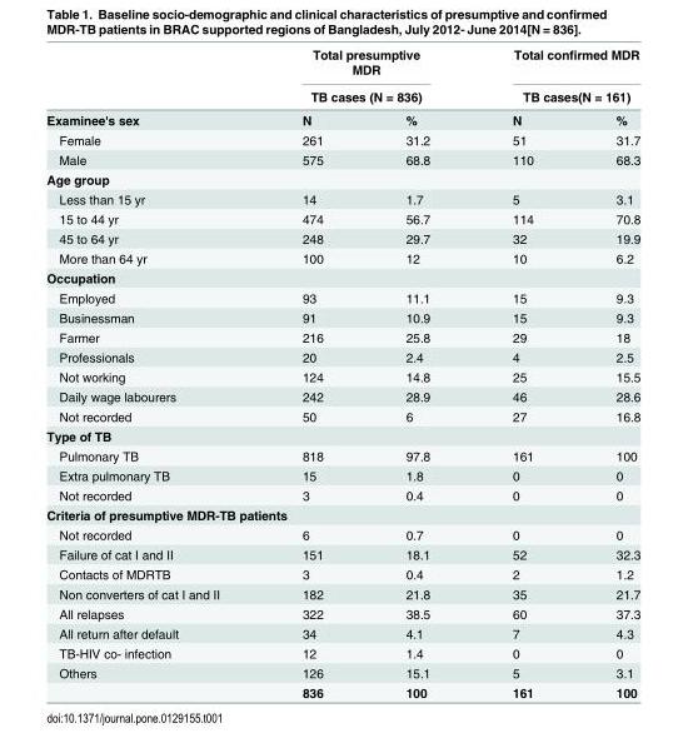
<table><thead><tr><td rowspan="3">Examinee&#x27;s sex</td><td rowspan="2" colspan="2">Total presumptive MDR TB cases (N = 836)</td><td rowspan="2" colspan="2">Total confirmed MDR TB cases(N = 161)</td></tr><tr></tr><tr><td>N</td><td>%</td><td>N</td><td>%</td></tr></thead><tbody><tr><td>Female</td><td>261</td><td>31.2</td><td>51</td><td>31.7</td></tr><tr><td>Male</td><td>575</td><td>68.8</td><td>110</td><td>68.3</td></tr><tr><td colspan="5">Age group</td></tr><tr><td>Less than 15 yr</td><td>14</td><td>1.7</td><td>5</td><td>3.1</td></tr><tr><td>15 to 44 yr</td><td>474</td><td>56.7</td><td>114</td><td>70.8</td></tr><tr><td>45 to 64 yr</td><td>248</td><td>29.7</td><td>32</td><td>19.9</td></tr><tr><td>More than 64 yr</td><td>100</td><td>12</td><td>10</td><td>6.2</td></tr><tr><td colspan="5">Occupation</td></tr><tr><td>Employed</td><td>93</td><td>11.1</td><td>15</td><td>9.3</td></tr><tr><td>Businessman</td><td>91</td><td>10.9</td><td>15</td><td>9.3</td></tr><tr><td>Farmer</td><td>216</td><td>25.8</td><td>29</td><td>18</td></tr><tr><td>Professionals</td><td>20</td><td>2.4</td><td>4</td><td>2.5</td></tr><tr><td>Not working</td><td>124</td><td>14.8</td><td>25</td><td>15.5</td></tr><tr><td>Daily wage labourers</td><td>242</td><td>28.9</td><td>46</td><td>28.6</td></tr><tr><td>Not recorded</td><td>50</td><td>6</td><td>27</td><td>16.8</td></tr><tr><td colspan="5">Type of TB</td></tr><tr><td>Pulmonary TB</td><td>818</td><td>97.8</td><td>161</td><td>100</td></tr><tr><td>Extra pulmonary TB</td><td>15</td><td>1.8</td><td>0</td><td>0</td></tr><tr><td>Not recorded</td><td>3</td><td>0.4</td><td>0</td><td>0</td></tr><tr><td colspan="5">Criteria of presumptive MDR-TB patients</td></tr><tr><td>Not recorded</td><td>6</td><td>0.7</td><td>0</td><td>0</td></tr><tr><td>Failure of cat I and II</td><td>151</td><td>18.1</td><td>52</td><td>32.3</td></tr><tr><td>Contacts of MDRTB</td><td>3</td><td>0.4</td><td>2</td><td>1.2</td></tr><tr><td>Non converters of cat I and II</td><td>182</td><td>21.8</td><td>35</td><td>21.7</td></tr><tr><td>All relapses</td><td>322</td><td>38.5</td><td>60</td><td>37.3</td></tr><tr><td>All return after default</td><td>34</td><td>4.1</td><td>7</td><td>4.3</td></tr><tr><td>TB-HIV co- infection</td><td>12</td><td>1.4</td><td>0</td><td>0</td></tr><tr><td rowspan="2">Others</td><td>126</td><td>15.1</td><td>5</td><td>3.1</td></tr><tr><td>836</td><td>100</td><td>161</td><td>100</td></tr></tbody></table>